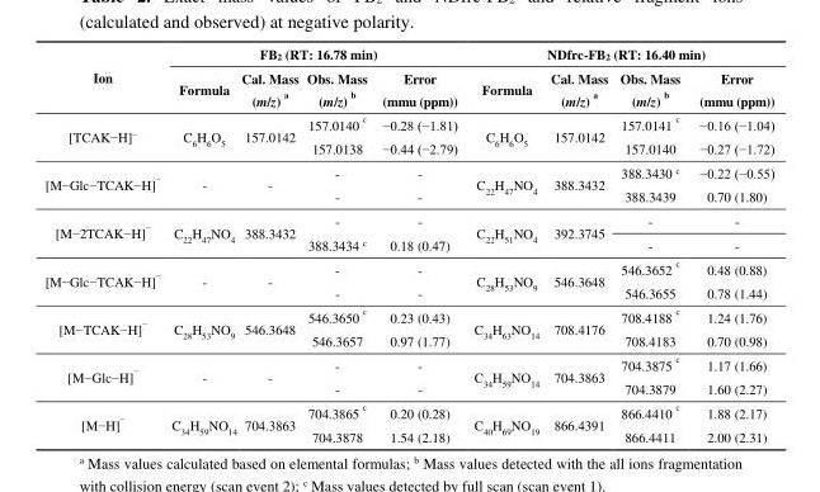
<table><thead><tr><td rowspan="2">Ion</td><td colspan="4">FB<sub>2</sub> (RT: 16.78 min)</td><td colspan="4">NDfrc-FB<sub>2</sub> (RT: 16.40 min)</td></tr><tr><td>Formula</td><td>Cal. Mass (m/z) <sup>a</sup></td><td>Obs. Mass (m/z) <sup>b</sup></td><td>Error (mmu (ppm))</td><td>Formula</td><td>Cal. Mass (m/z) <sup>a</sup></td><td>Obs. Mass (m/z) <sup>b</sup></td><td>Error (mmu (ppm))</td></tr></thead><tbody><tr><td rowspan="2">[TCAK−H]<sup>−</sup></td><td rowspan="2">C<sub>6</sub>H<sub>6</sub>O<sub>5</sub></td><td rowspan="2">157.0142</td><td>157.0140 <sup>c</sup></td><td>−0.28 (−1.81)</td><td rowspan="2">C<sub>6</sub>H<sub>6</sub>O<sub>5</sub></td><td rowspan="2">157.0142</td><td>157.0141 <sup>c</sup></td><td>−0.16 (−1.04)</td></tr><tr><td>157.0138</td><td>−0.44 (−2.79)</td><td>157.0140</td><td>−0.27 (−1.72)</td></tr><tr><td rowspan="2">[M−Glc−TCAK−H] <sup>−</sup></td><td rowspan="2">-</td><td rowspan="2">-</td><td>-</td><td>-</td><td rowspan="2">C<sub>22</sub>H<sub>47</sub>NO<sub>4</sub></td><td rowspan="2">388.3432</td><td>388.3430 <sup>c</sup></td><td>−0.22 (−0.55)</td></tr><tr><td>-</td><td>-</td><td>388.3439</td><td>0.70 (1.80)</td></tr><tr><td rowspan="2">[M−2TCAK−H] <sup>−</sup></td><td rowspan="2">C<sub>22</sub>H<sub>47</sub>NO<sub>4</sub></td><td rowspan="2">388.3432</td><td>-</td><td>-</td><td rowspan="2">C<sub>22</sub>H<sub>51</sub>NO<sub>4</sub></td><td rowspan="2">392.3745</td><td>-</td><td>-</td></tr><tr><td>388.3434 <sup>c</sup></td><td>0.18 (0.47)</td><td>-</td><td>-</td></tr><tr><td rowspan="2">[M−Glc−TCAK−H] <sup>−</sup></td><td rowspan="2">-</td><td rowspan="2">-</td><td>-</td><td>-</td><td rowspan="2">C<sub>28</sub>H<sub>53</sub>NO<sub>9</sub></td><td rowspan="2">546.3648</td><td>546.3652 <sup>c</sup></td><td>0.48 (0.88)</td></tr><tr><td>-</td><td>-</td><td>546.3655</td><td>0.78 (1.44)</td></tr><tr><td rowspan="2">[M−TCAK−H] <sup>−</sup></td><td rowspan="2">C<sub>28</sub>H<sub>53</sub>NO<sub>9</sub></td><td rowspan="2">546.3648</td><td>546.3650 <sup>c</sup></td><td>0.23 (0.43)</td><td rowspan="2">C<sub>34</sub>H<sub>63</sub>NO<sub>14</sub></td><td rowspan="2">708.4176</td><td>708.4188 <sup>c</sup></td><td>1.24 (1.76)</td></tr><tr><td>546.3657</td><td>0.97 (1.77)</td><td>708.4183</td><td>0.70 (0.98)</td></tr><tr><td rowspan="2">[M−Glc−H] <sup>−</sup></td><td rowspan="2">-</td><td rowspan="2">-</td><td>-</td><td>-</td><td rowspan="2">C<sub>34</sub>H<sub>59</sub>NO<sub>14</sub></td><td rowspan="2">704.3863</td><td>704.3875 <sup>c</sup></td><td>1.17 (1.66)</td></tr><tr><td>-</td><td>-</td><td>704.3879</td><td>1.60 (2.27)</td></tr><tr><td rowspan="2">[M−H] <sup>−</sup></td><td rowspan="2">C<sub>34</sub>H<sub>59</sub>NO<sub>14</sub></td><td rowspan="2">704.3863</td><td>704.3865 <sup>c</sup></td><td>0.20 (0.28)</td><td rowspan="2">C<sub>40</sub>H<sub>69</sub>NO<sub>19</sub></td><td rowspan="2">866.4391</td><td>866.4410 <sup>c</sup></td><td>1.88 (2.17)</td></tr><tr><td>704.3878</td><td>1.54 (2.18)</td><td>866.4411</td><td>2.00 (2.31)</td></tr></tbody></table>